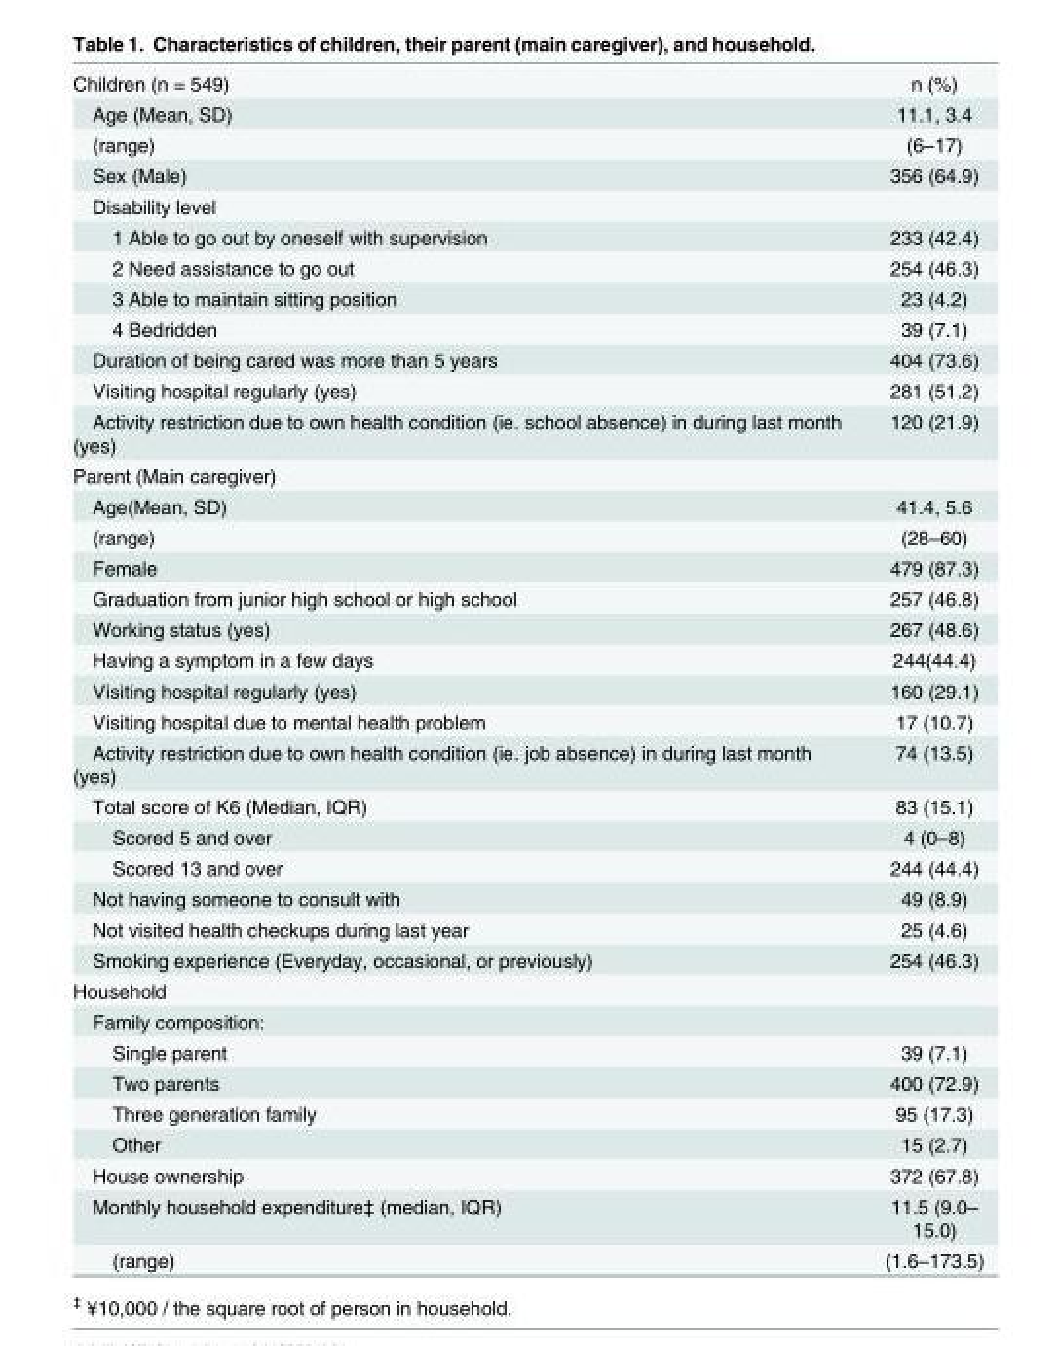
<table><tbody><tr><td>Children (n = 549)</td><td>n (%)</td></tr><tr><td>Age (Mean, SD)</td><td>11.1, 3.4</td></tr><tr><td>(range)</td><td>(6–17)</td></tr><tr><td>Sex (Male)</td><td>356 (64.9)</td></tr><tr><td colspan="2">Disability level</td></tr><tr><td>1 Able to go out by oneself with supervision</td><td>233 (42.4)</td></tr><tr><td>2 Need assistance to go out</td><td>254 (46.3)</td></tr><tr><td>3 Able to maintain sitting position</td><td>23 (4.2)</td></tr><tr><td>4 Bedridden</td><td>39 (7.1)</td></tr><tr><td>Duration of being cared was more than 5 years</td><td>404 (73.6)</td></tr><tr><td>Visiting hospital regularly (yes)</td><td>281 (51.2)</td></tr><tr><td>Activity restriction due to own health condition (ie. school absence) in during last month (yes)</td><td>120 (21.9)</td></tr><tr><td colspan="2">Parent (Main caregiver)</td></tr><tr><td>Age(Mean, SD)</td><td>41.4, 5.6</td></tr><tr><td>(range)</td><td>(28–60)</td></tr><tr><td>Female</td><td>479 (87.3)</td></tr><tr><td>Graduation from junior high school or high school</td><td>257 (46.8)</td></tr><tr><td>Working status (yes)</td><td>267 (48.6)</td></tr><tr><td>Having a symptom in a few days</td><td>244(44.4)</td></tr><tr><td>Visiting hospital regularly (yes)</td><td>160 (29.1)</td></tr><tr><td>Visiting hospital due to mental health problem</td><td>17 (10.7)</td></tr><tr><td>Activity restriction due to own health condition (ie. job absence) in during last month (yes)</td><td>74 (13.5)</td></tr><tr><td>Total score of K6 (Median, IQR)</td><td>83 (15.1)</td></tr><tr><td>Scored 5 and over</td><td>4 (0–8)</td></tr><tr><td>Scored 13 and over</td><td>244 (44.4)</td></tr><tr><td>Not having someone to consult with</td><td>49 (8.9)</td></tr><tr><td>Not visited health checkups during last year</td><td>25 (4.6)</td></tr><tr><td>Smoking experience (Everyday, occasional, or previously)</td><td>254 (46.3)</td></tr><tr><td colspan="2">Household</td></tr><tr><td colspan="2">Family composition:</td></tr><tr><td>Single parent</td><td>39 (7.1)</td></tr><tr><td>Two parents</td><td>400 (72.9)</td></tr><tr><td>Three generation family</td><td>95 (17.3)</td></tr><tr><td>Other</td><td>15 (2.7)</td></tr><tr><td>House ownership</td><td>372 (67.8)</td></tr><tr><td>Monthly household expenditure‡ (median, IQR)</td><td>11.5 (9.0– 15.0)</td></tr><tr><td>(range)</td><td>(1.6–173.5)</td></tr></tbody></table>